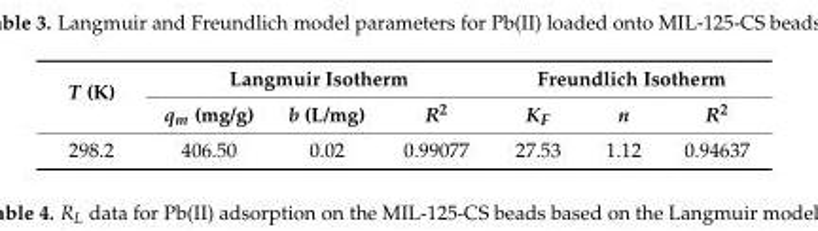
<table><thead><tr><td rowspan="2">T (K)</td><td colspan="3">Langmuir Isotherm</td><td colspan="3">Freundlich Isotherm</td></tr><tr><td>qm (mg/g)</td><td>b (L/mg)</td><td>R2</td><td>KF</td><td>n</td><td>R2</td></tr></thead><tbody><tr><td>298.2</td><td>406.50</td><td>0.02</td><td>0.99077</td><td>27.53</td><td>1.12</td><td>0.94637</td></tr></tbody></table>